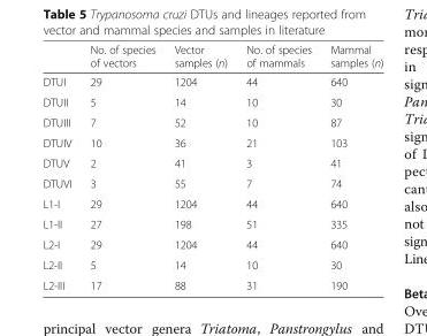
<table><thead><tr><td></td><td>No. of species of vectors</td><td>Vector samples (n)</td><td>No. of species of mammals</td><td>Mammal samples (n)</td></tr></thead><tbody><tr><td>DTUI</td><td>29</td><td>1204</td><td>44</td><td>640</td></tr><tr><td>DTUII</td><td>5</td><td>14</td><td>10</td><td>30</td></tr><tr><td>DTUIII</td><td>7</td><td>52</td><td>10</td><td>87</td></tr><tr><td>DTUIV</td><td>10</td><td>36</td><td>21</td><td>103</td></tr><tr><td>DTUV</td><td>2</td><td>41</td><td>3</td><td>41</td></tr><tr><td>DTUVI</td><td>3</td><td>55</td><td>7</td><td>74</td></tr><tr><td>L1-I</td><td>29</td><td>1204</td><td>44</td><td>640</td></tr><tr><td>L1-II</td><td>27</td><td>198</td><td>51</td><td>335</td></tr><tr><td>L2-I</td><td>29</td><td>1204</td><td>44</td><td>640</td></tr><tr><td>L2-II</td><td>5</td><td>14</td><td>10</td><td>30</td></tr><tr><td>L2-III</td><td>17</td><td>88</td><td>31</td><td>190</td></tr></tbody></table>